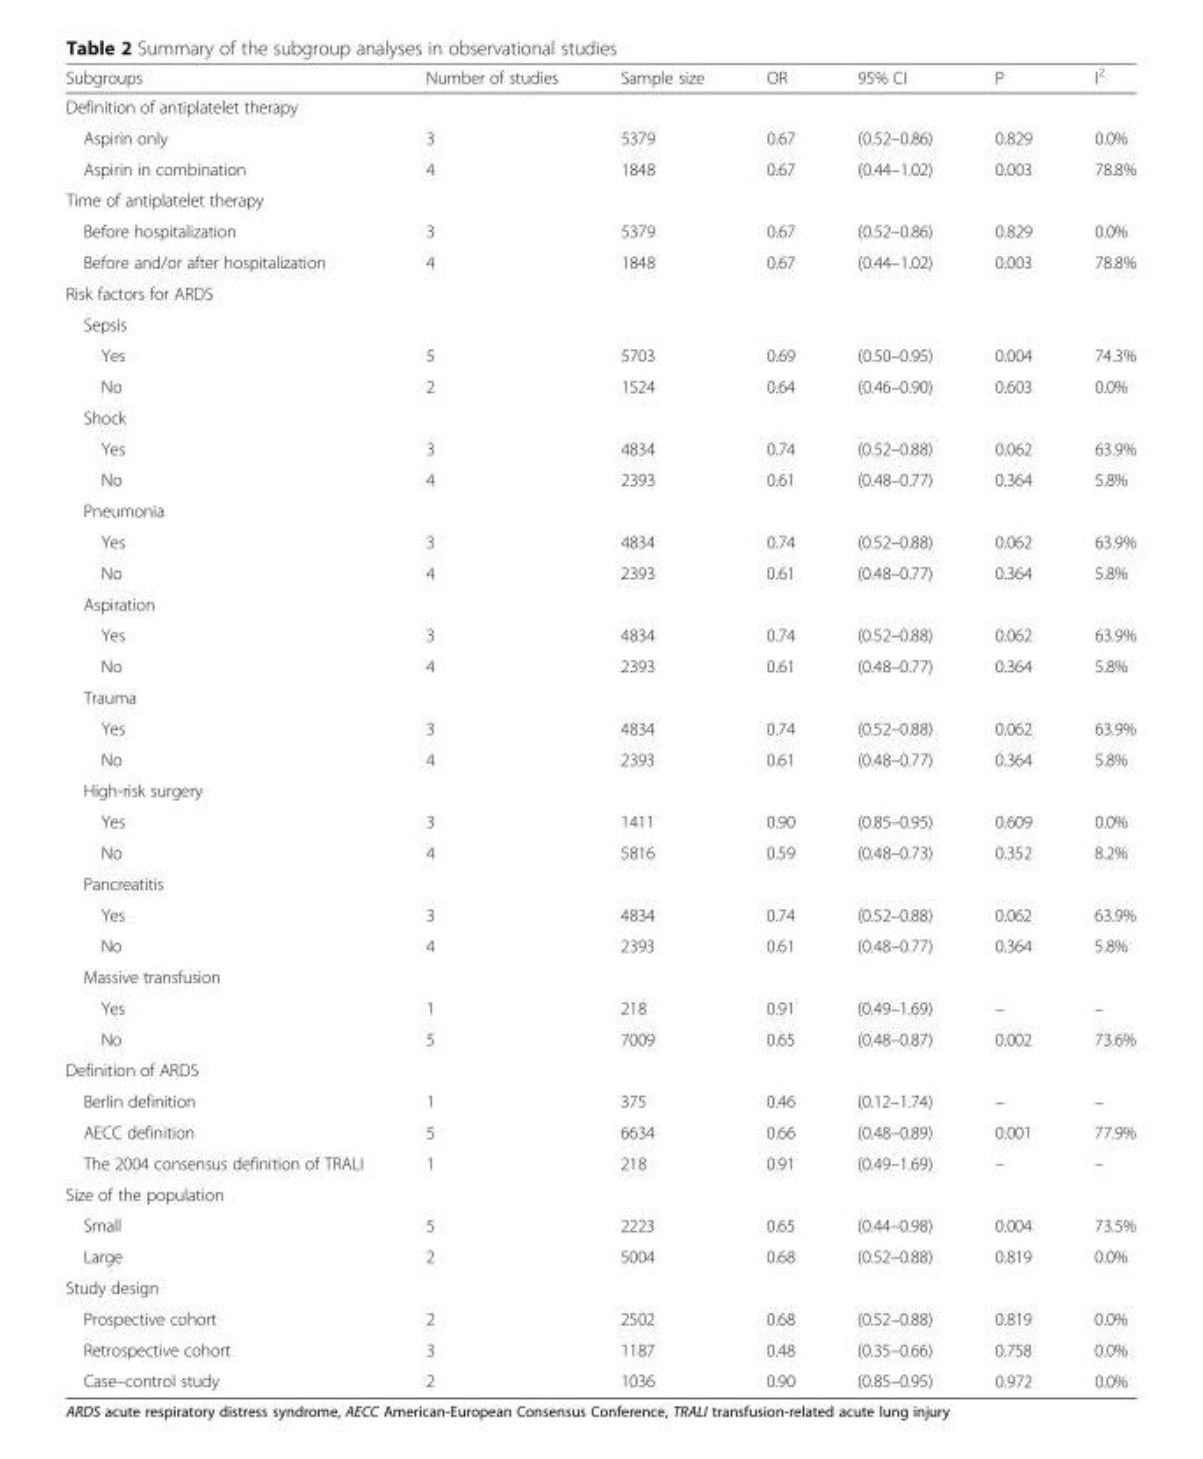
<table><thead><tr><td>Subgroups</td><td>Number of studies</td><td>Sample size</td><td>OR</td><td>95% CI</td><td>P</td><td>I<sup>2</sup></td></tr></thead><tbody><tr><td colspan="7">Definition of antiplatelet therapy</td></tr><tr><td>Aspirin only</td><td>3</td><td>5379</td><td>0.67</td><td>(0.52–0.86)</td><td>0.829</td><td>0.0%</td></tr><tr><td>Aspirin in combination</td><td>4</td><td>1848</td><td>0.67</td><td>(0.44–1.02)</td><td>0.003</td><td>78.8%</td></tr><tr><td colspan="7">Time of antiplatelet therapy</td></tr><tr><td>Before hospitalization</td><td>3</td><td>5379</td><td>0.67</td><td>(0.52–0.86)</td><td>0.829</td><td>0.0%</td></tr><tr><td>Before and/or after hospitalization</td><td>4</td><td>1848</td><td>0.67</td><td>(0.44–1.02)</td><td>0.003</td><td>78.8%</td></tr><tr><td colspan="7">Risk factors for ARDS</td></tr><tr><td colspan="7">Sepsis</td></tr><tr><td>Yes</td><td>5</td><td>5703</td><td>0.69</td><td>(0.50–0.95)</td><td>0.004</td><td>74.3%</td></tr><tr><td>No</td><td>2</td><td>1524</td><td>0.64</td><td>(0.46–0.90)</td><td>0.603</td><td>0.0%</td></tr><tr><td colspan="7">Shock</td></tr><tr><td>Yes</td><td>3</td><td>4834</td><td>0.74</td><td>(0.52–0.88)</td><td>0.062</td><td>63.9%</td></tr><tr><td>No</td><td>4</td><td>2393</td><td>0.61</td><td>(0.48–0.77)</td><td>0.364</td><td>5.8%</td></tr><tr><td colspan="7">Pneumonia</td></tr><tr><td>Yes</td><td>3</td><td>4834</td><td>0.74</td><td>(0.52–0.88)</td><td>0.062</td><td>63.9%</td></tr><tr><td>No</td><td>4</td><td>2393</td><td>0.61</td><td>(0.48–0.77)</td><td>0.364</td><td>5.8%</td></tr><tr><td colspan="7">Aspiration</td></tr><tr><td>Yes</td><td>3</td><td>4834</td><td>0.74</td><td>(0.52–0.88)</td><td>0.062</td><td>63.9%</td></tr><tr><td>No</td><td>4</td><td>2393</td><td>0.61</td><td>(0.48–0.77)</td><td>0.364</td><td>5.8%</td></tr><tr><td colspan="7">Trauma</td></tr><tr><td>Yes</td><td>3</td><td>4834</td><td>0.74</td><td>(0.52–0.88)</td><td>0.062</td><td>63.9%</td></tr><tr><td>No</td><td>4</td><td>2393</td><td>0.61</td><td>(0.48–0.77)</td><td>0.364</td><td>5.8%</td></tr><tr><td colspan="7">High-risk surgery</td></tr><tr><td>Yes</td><td>3</td><td>1411</td><td>0.90</td><td>(0.85–0.95)</td><td>0.609</td><td>0.0%</td></tr><tr><td>No</td><td>4</td><td>5816</td><td>0.59</td><td>(0.48–0.73)</td><td>0.352</td><td>8.2%</td></tr><tr><td colspan="7">Pancreatitis</td></tr><tr><td>Yes</td><td>3</td><td>4834</td><td>0.74</td><td>(0.52–0.88)</td><td>0.062</td><td>63.9%</td></tr><tr><td>No</td><td>4</td><td>2393</td><td>0.61</td><td>(0.48–0.77)</td><td>0.364</td><td>5.8%</td></tr><tr><td colspan="7">Massive transfusion</td></tr><tr><td>Yes</td><td>1</td><td>218</td><td>0.91</td><td>(0.49–1.69)</td><td>–</td><td>–</td></tr><tr><td>No</td><td>5</td><td>7009</td><td>0.65</td><td>(0.48–0.87)</td><td>0.002</td><td>73.6%</td></tr><tr><td colspan="7">Definition of ARDS</td></tr><tr><td>Berlin definition</td><td>1</td><td>375</td><td>0.46</td><td>(0.12–1.74)</td><td>–</td><td>–</td></tr><tr><td>AECC definition</td><td>5</td><td>6634</td><td>0.66</td><td>(0.48–0.89)</td><td>0.001</td><td>77.9%</td></tr><tr><td>The 2004 consensus definition of TRALI</td><td>1</td><td>218</td><td>0.91</td><td>(0.49–1.69)</td><td>–</td><td>–</td></tr><tr><td colspan="7">Size of the population</td></tr><tr><td>Small</td><td>5</td><td>2223</td><td>0.65</td><td>(0.44–0.98)</td><td>0.004</td><td>73.5%</td></tr><tr><td>Large</td><td>2</td><td>5004</td><td>0.68</td><td>(0.52–0.88)</td><td>0.819</td><td>0.0%</td></tr><tr><td colspan="7">Study design</td></tr><tr><td>Prospective cohort</td><td>2</td><td>2502</td><td>0.68</td><td>(0.52–0.88)</td><td>0.819</td><td>0.0%</td></tr><tr><td>Retrospective cohort</td><td>3</td><td>1187</td><td>0.48</td><td>(0.35–0.66)</td><td>0.758</td><td>0.0%</td></tr><tr><td>Case–control study</td><td>2</td><td>1036</td><td>0.90</td><td>(0.85–0.95)</td><td>0.972</td><td>0.0%</td></tr></tbody></table>